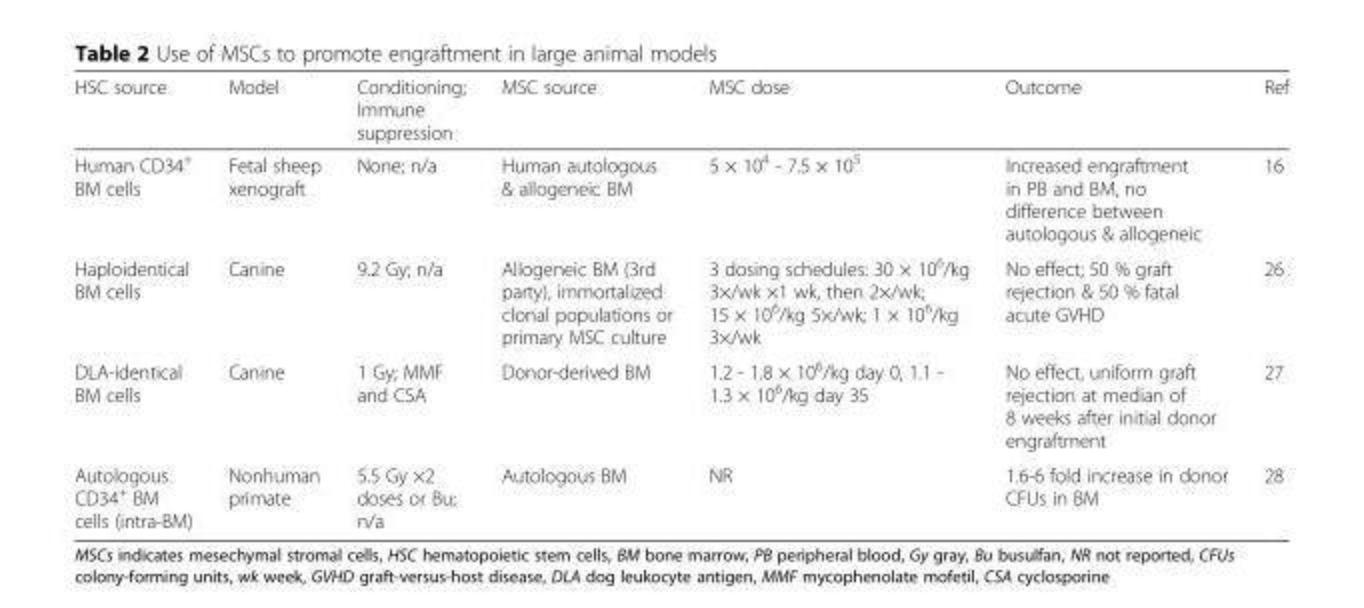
<table><thead><tr><td>HSC source</td><td>Model</td><td>Conditioning; Immune suppression</td><td>MSC source</td><td>MSC dose</td><td>Outcome</td><td>Ref</td></tr></thead><tbody><tr><td>Human CD34<sup>+</sup> BM cells</td><td>Fetal sheep xenograft</td><td>None; n/a</td><td>Human autologous &amp; allogeneic BM</td><td>5 × 10<sup>4</sup> - 7.5 × 10<sup>5</sup></td><td>Increased engraftment in PB and BM, no difference between autologous &amp; allogeneic</td><td>16</td></tr><tr><td>Haploidentical BM cells</td><td>Canine</td><td>9.2 Gy; n/a</td><td>Allogeneic BM (3rd party), immortalized clonal populations or primary MSC culture</td><td>3 dosing schedules: 30 × 10<sup>6</sup>/kg 3×/wk ×1 wk, then 2×/wk; 15 × 10<sup>6</sup>/kg 5×/wk; 1 × 10<sup>6</sup>/kg 3×/wk</td><td>No effect; 50 % graft rejection &amp; 50 % fatal acute GVHD</td><td>26</td></tr><tr><td>DLA-identical BM cells</td><td>Canine</td><td>1 Gy; MMF and CSA</td><td>Donor-derived BM</td><td>1.2 - 1.8 × 10<sup>6</sup>/kg day 0, 1.1 - 1.3 × 10<sup>6</sup>/kg day 35</td><td>No effect, uniform graft rejection at median of 8 weeks after initial donor engraftment</td><td>27</td></tr><tr><td>Autologous CD34<sup>+</sup> BM cells (intra-BM)</td><td>Nonhuman primate</td><td>5.5 Gy ×2 doses or Bu; n/a</td><td>Autologous BM</td><td>NR</td><td>1.6-6 fold increase in donor CFUs in BM</td><td>28</td></tr></tbody></table>